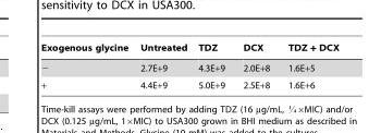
<table><thead><tr><td>Exogenous glycine</td><td>Untreated</td><td>TDZ</td><td>DCX</td><td>TDZ + DCX</td></tr></thead><tbody><tr><td>−</td><td>2.7E+9</td><td>4.3E+9</td><td>2.0E+8</td><td>1.6E+5</td></tr><tr><td>+</td><td>4.4E+9</td><td>5.0E+9</td><td>2.5E+8</td><td>1.6E+6</td></tr></tbody></table>